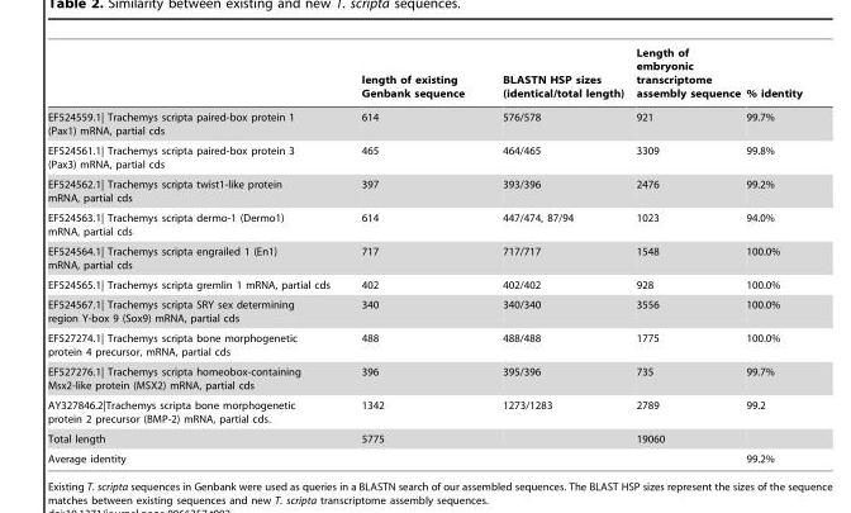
<table><thead><tr><td></td><td>length of existing Genbank sequence</td><td>BLASTN HSP sizes (identical/total length)</td><td>Length of embryonic transcriptome assembly sequence</td><td>% identity</td></tr></thead><tbody><tr><td>EF524559.1| Trachemys scripta paired-box protein 1 (Pax1) mRNA, partial cds</td><td>614</td><td>576/578</td><td>921</td><td>99.7%</td></tr><tr><td>EF524561.1| Trachemys scripta paired-box protein 3 (Pax3) mRNA, partial cds</td><td>465</td><td>464/465</td><td>3309</td><td>99.8%</td></tr><tr><td>EF524562.1| Trachemys scripta twist1-like protein mRNA, partial cds</td><td>397</td><td>393/396</td><td>2476</td><td>99.2%</td></tr><tr><td>EF524563.1| Trachemys scripta dermo-1 (Dermo1) mRNA, partial cds</td><td>614</td><td>447/474, 87/94</td><td>1023</td><td>94.0%</td></tr><tr><td>EF524564.1| Trachemys scripta engrailed 1 (En1) mRNA, partial cds</td><td>717</td><td>717/717</td><td>1548</td><td>100.0%</td></tr><tr><td>EF524565.1| Trachemys scripta gremlin 1 mRNA, partial cds</td><td>402</td><td>402/402</td><td>928</td><td>100.0%</td></tr><tr><td>EF524567.1| Trachemys scripta SRY sex determining region Y-box 9 (Sox9) mRNA, partial cds</td><td>340</td><td>340/340</td><td>3556</td><td>100.0%</td></tr><tr><td>EF527274.1| Trachemys scripta bone morphogenetic protein 4 precursor, mRNA, partial cds</td><td>488</td><td>488/488</td><td>1775</td><td>100.0%</td></tr><tr><td>EF527276.1| Trachemys scripta homeobox-containing Msx2-like protein (MSX2) mRNA, partial cds</td><td>396</td><td>395/396</td><td>735</td><td>99.7%</td></tr><tr><td>AY327846.2|Trachemys scripta bone morphogenetic protein 2 precursor (BMP-2) mRNA, partial cds.</td><td>1342</td><td>1273/1283</td><td>2789</td><td>99.2</td></tr><tr><td>Total length</td><td>5775</td><td></td><td>19060</td><td></td></tr><tr><td colspan="4">Average identity</td><td>99.2%</td></tr></tbody></table>